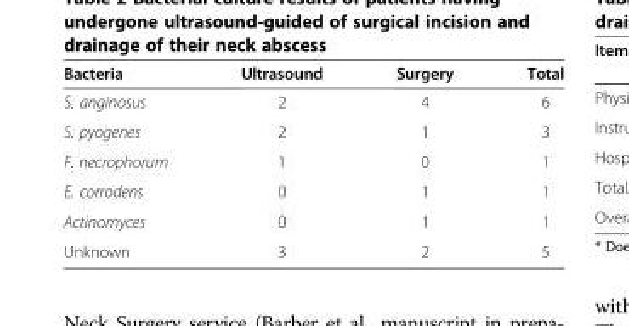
<table><thead><tr><td>Bacteria</td><td>Ultrasound</td><td>Surgery</td><td>Total</td></tr></thead><tbody><tr><td>S. anginosus</td><td>2</td><td>4</td><td>6</td></tr><tr><td>S. pyogenes</td><td>2</td><td>1</td><td>3</td></tr><tr><td>F. necrophorum</td><td>1</td><td>0</td><td>1</td></tr><tr><td>E. corrodens</td><td>0</td><td>1</td><td>1</td></tr><tr><td>Actinomyces</td><td>0</td><td>1</td><td>1</td></tr><tr><td>Unknown</td><td>3</td><td>2</td><td>5</td></tr></tbody></table>